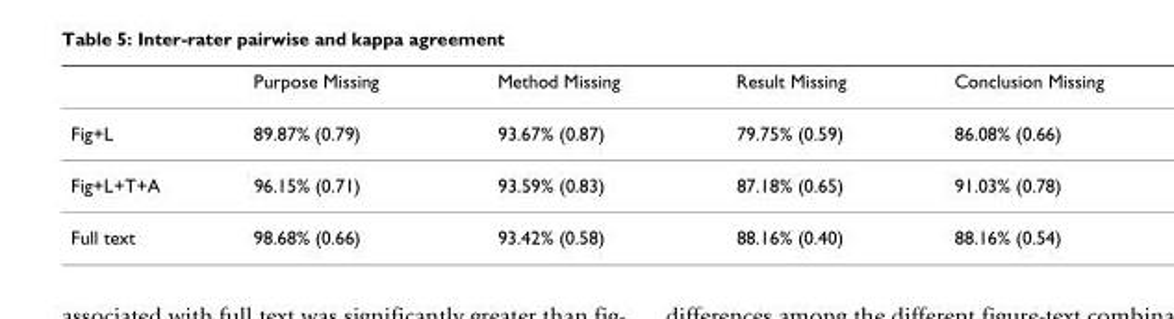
<table><thead><tr><td></td><td>Purpose Missing</td><td>Method Missing</td><td>Result Missing</td><td>Conclusion Missing</td></tr></thead><tbody><tr><td>Fig+L</td><td>89.87% (0.79)</td><td>93.67% (0.87)</td><td>79.75% (0.59)</td><td>86.08% (0.66)</td></tr><tr><td>Fig+L+T+A</td><td>96.15% (0.71)</td><td>93.59% (0.83)</td><td>87.18% (0.65)</td><td>91.03% (0.78)</td></tr><tr><td>Full text</td><td>98.68% (0.66)</td><td>93.42% (0.58)</td><td>88.16% (0.40)</td><td>88.16% (0.54)</td></tr></tbody></table>